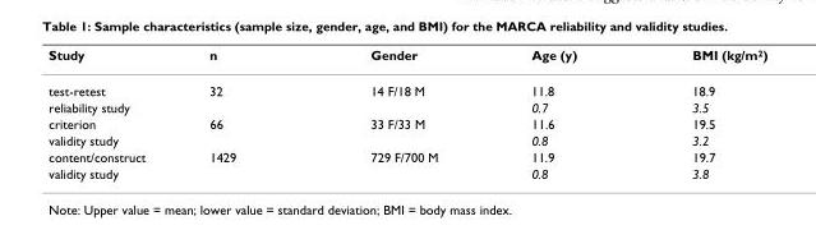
<table><thead><tr><td>Study</td><td>n</td><td>Gender</td><td>Age (y)</td><td>BMI (kg/m<sup>2</sup>)</td></tr></thead><tbody><tr><td>test-retest</td><td>32</td><td>14 F/18 M</td><td>11.8</td><td>18.9</td></tr><tr><td>reliability study</td><td></td><td></td><td>0.7</td><td>3.5</td></tr><tr><td>criterion</td><td>66</td><td>33 F/33 M</td><td>11.6</td><td>19.5</td></tr><tr><td>validity study</td><td></td><td></td><td>0.8</td><td>3.2</td></tr><tr><td>content/construct</td><td>1429</td><td>729 F/700 M</td><td>11.9</td><td>19.7</td></tr><tr><td>validity study</td><td></td><td></td><td>0.8</td><td>3.8</td></tr></tbody></table>